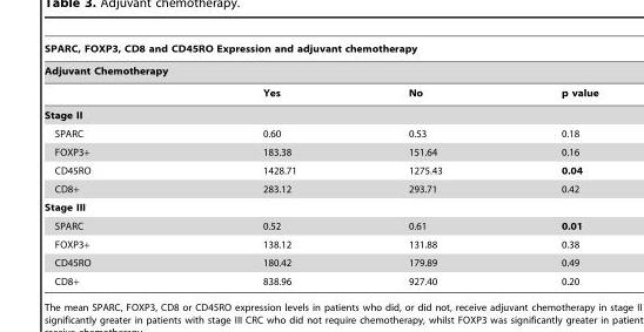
<table><thead><tr><td rowspan="2" colspan="4">SPARC, FOXP3, CD8 and CD45RO Expression and adjuvant chemotherapy Adjuvant Chemotherapy</td></tr><tr></tr><tr><td></td><td>Yes</td><td>No</td><td>p value</td></tr></thead><tbody><tr><td colspan="4">Stage II</td></tr><tr><td>SPARC</td><td>0.60</td><td>0.53</td><td>0.18</td></tr><tr><td>FOXP3+</td><td>183.38</td><td>151.64</td><td>0.16</td></tr><tr><td>CD45RO</td><td>1428.71</td><td>1275.43</td><td>0.04</td></tr><tr><td>CD8+</td><td>283.12</td><td>293.71</td><td>0.42</td></tr><tr><td colspan="4">Stage III</td></tr><tr><td>SPARC</td><td>0.52</td><td>0.61</td><td>0.01</td></tr><tr><td>FOXP3+</td><td>138.12</td><td>131.88</td><td>0.38</td></tr><tr><td>CD45RO</td><td>180.42</td><td>179.89</td><td>0.49</td></tr><tr><td>CD8+</td><td>838.96</td><td>927.40</td><td>0.20</td></tr></tbody></table>